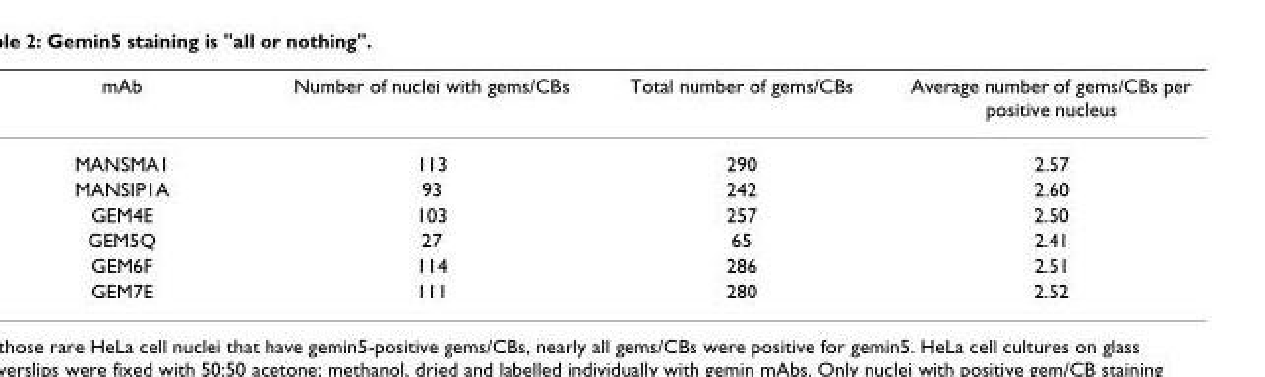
<table><thead><tr><td>mAb</td><td>Number of nuclei with gems/CBs</td><td>Total number of gems/CBs</td><td>Average number of gems/CBs per positive nucleus</td></tr></thead><tbody><tr><td>MANSMA1</td><td>113</td><td>290</td><td>2.57</td></tr><tr><td>MANSIP1A</td><td>93</td><td>242</td><td>2.60</td></tr><tr><td>GEM4E</td><td>103</td><td>257</td><td>2.50</td></tr><tr><td>GEM5Q</td><td>27</td><td>65</td><td>2.41</td></tr><tr><td>GEM6F</td><td>114</td><td>286</td><td>2.51</td></tr><tr><td>GEM7E</td><td>111</td><td>280</td><td>2.52</td></tr></tbody></table>